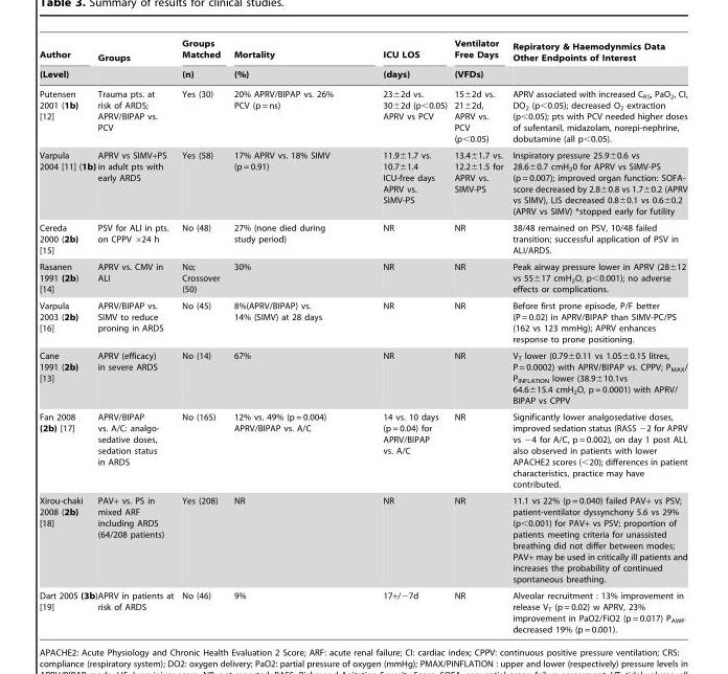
<table><thead><tr><td rowspan="2">Author (Level)</td><td rowspan="2">Groups</td><td rowspan="2">Groups Matched (n)</td><td rowspan="2">Mortality (%)</td><td rowspan="2">ICU LOS (days)</td><td rowspan="2">Ventilator Free Days (VFDs)</td><td rowspan="2">Repiratory &amp; Haemodynmics Data Other Endpoints of Interest</td></tr><tr></tr></thead><tbody><tr><td>Putensen 2001 (1b) [12]</td><td>Trauma pts. at risk of ARDS; APRV/BIPAP vs. PCV</td><td>Yes (30)</td><td>20% APRV/BIPAP vs. 26% PCV (p = ns)</td><td>23±2d vs. 30±2d (p&lt;0.05) APRV vs PCV</td><td>15±2d vs. 21±2d, APRV vs. PCV (p&lt;0.05)</td><td>APRV associated with increased C<sub>RS</sub>, PaO<sub>2</sub>, CI, DO<sub>2</sub> (p&lt;0.05); decreased O<sub>2</sub> extraction (p&lt;0.05); pts with PCV needed higher doses of sufentanil, midazolam, norepi-nephrine, dobutamine (all p&lt;0.05).</td></tr><tr><td>Varpula 2004 [11] (1b)</td><td>APRV vs SIMV+PS in adult pts with early ARDS</td><td>Yes (58)</td><td>17% APRV vs. 18% SIMV (p = 0.91)</td><td>11.9±1.7 vs. 10.7±1.4 ICU-free days APRV vs. SIMV-PS</td><td>13.4±1.7 vs. 12.2±1.5 for APRV vs. SIMV-PS</td><td>Inspiratory pressure 25.9±0.6 vs 28.6±0.7 cmH<sub>2</sub>0 for APRV vs SIMV-PS (p = 0.007); improved organ function: SOFA- score decreased by 2.8±0.8 vs 1.7±0.2 (APRV vs SIMV), LIS decreased 0.8±0.1 vs 0.6±0.2 (APRV vs SIMV) *stopped early for futility</td></tr><tr><td>Cereda 2000 (2b) [15]</td><td>PSV for ALI in pts. on CPPV ×24 h</td><td>No (48)</td><td>27% (none died during study period)</td><td>NR</td><td>NR</td><td>38/48 remained on PSV, 10/48 failed transition; successful application of PSV in ALI/ARDS.</td></tr><tr><td>Rasanen 1991 (2b) [14]</td><td>APRV vs. CMV in ALI</td><td>No; Crossover (50)</td><td>30%</td><td>NR</td><td>NR</td><td>Peak airway pressure lower in APRV (28±12 vs 55±17 cmH<sub>2</sub>O, p&lt;0.001); no adverse effects or complications.</td></tr><tr><td>Varpula 2003 (2b) [16]</td><td>APRV/BIPAP vs. SIMV to reduce proning in ARDS</td><td>No (45)</td><td>8%(APRV/BIPAP) vs. 14% (SIMV) at 28 days</td><td>NR</td><td>NR</td><td>Before first prone episode, P/F better (P = 0.02) in APRV/BIPAP than SIMV-PC/PS (162 vs 123 mmHg); APRV enhances response to prone positioning.</td></tr><tr><td>Cane 1991 (2b) [13]</td><td>APRV (efficacy) in severe ARDS</td><td>No (14)</td><td>67%</td><td>NR</td><td>NR</td><td>V<sub>T</sub> lower (0.79±0.11 vs 1.05±0.15 litres, P = 0.0002) with APRV/BIPAP vs. CPPV; P<sub>MAX</sub>/ P<sub>INFLATION</sub> lower (38.9±10.1vs 64.6±15.4 cmH<sub>2</sub>O, p = 0.0001) with APRV/ BIPAP vs CPPV</td></tr><tr><td>Fan 2008 (2b) [17]</td><td>APRV/BIPAP vs. A/C: analgo- sedative doses, sedation status in ARDS</td><td>No (165)</td><td>12% vs. 49% (p = 0.004) APRV/BIPAP vs. A/C</td><td>14 vs. 10 days (p = 0.04) for APRV/BIPAP vs. A/C</td><td>NR</td><td>Significantly lower analgosedative doses, improved sedation status (RASS −2 for APRV vs −4 for A/C, p = 0.002), on day 1 post ALI, also observed in patients with lower APACHE2 scores (&lt;20); differences in patient characteristics, practice may have contributed.</td></tr><tr><td>Xirou-chaki 2008 (2b) [18]</td><td>PAV+ vs. PS in mixed ARF including ARDS (64/208 patients)</td><td>Yes (208)</td><td>NR</td><td>NR</td><td>NR</td><td>11.1 vs 22% (p = 0.040) failed PAV+ vs PSV; patient-ventilator dyssynchony 5.6 vs 29% (p&lt;0.001) for PAV+ vs PSV; proportion of patients meeting criteria for unassisted breathing did not differ between modes; PAV+ may be used in critically ill patients and increases the probability of continued spontaneous breathing.</td></tr><tr><td>Dart 2005 (3b) [19]</td><td>APRV in patients at risk of ARDS</td><td>No (46)</td><td>9%</td><td>17+/−7d</td><td>NR</td><td>Alveolar recruitment : 13% improvement in release V<sub>T</sub> (p = 0.02) w APRV, 23% improvement in PaO2/FiO2 (p = 0.017) P<sub>AWP</sub> decreased 19% (p = 0.001).</td></tr></tbody></table>